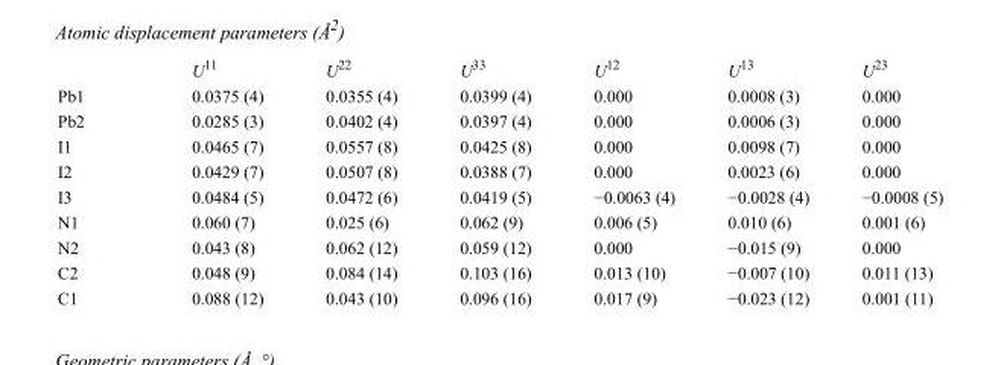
<table><thead><tr><td></td><td>U<sup>11</sup></td><td>U<sup>22</sup></td><td>U<sup>33</sup></td><td>U<sup>12</sup></td><td>U<sup>13</sup></td><td>U<sup>23</sup></td></tr></thead><tbody><tr><td>Pb1</td><td>0.0375 (4)</td><td>0.0355 (4)</td><td>0.0399 (4)</td><td>0.000</td><td>0.0008 (3)</td><td>0.000</td></tr><tr><td>Pb2</td><td>0.0285 (3)</td><td>0.0402 (4)</td><td>0.0397 (4)</td><td>0.000</td><td>0.0006 (3)</td><td>0.000</td></tr><tr><td>I1</td><td>0.0465 (7)</td><td>0.0557 (8)</td><td>0.0425 (8)</td><td>0.000</td><td>0.0098 (7)</td><td>0.000</td></tr><tr><td>I2</td><td>0.0429 (7)</td><td>0.0507 (8)</td><td>0.0388 (7)</td><td>0.000</td><td>0.0023 (6)</td><td>0.000</td></tr><tr><td>I3</td><td>0.0484 (5)</td><td>0.0472 (6)</td><td>0.0419 (5)</td><td>−0.0063 (4)</td><td>−0.0028 (4)</td><td>−0.0008 (5)</td></tr><tr><td>N1</td><td>0.060 (7)</td><td>0.025 (6)</td><td>0.062 (9)</td><td>0.006 (5)</td><td>0.010 (6)</td><td>0.001 (6)</td></tr><tr><td>N2</td><td>0.043 (8)</td><td>0.062 (12)</td><td>0.059 (12)</td><td>0.000</td><td>−0.015 (9)</td><td>0.000</td></tr><tr><td>C2</td><td>0.048 (9)</td><td>0.084 (14)</td><td>0.103 (16)</td><td>0.013 (10)</td><td>−0.007 (10)</td><td>0.011 (13)</td></tr><tr><td>C1</td><td>0.088 (12)</td><td>0.043 (10)</td><td>0.096 (16)</td><td>0.017 (9)</td><td>−0.023 (12)</td><td>0.001 (11)</td></tr></tbody></table>